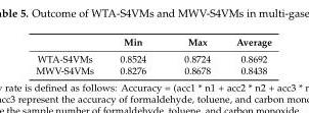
<table><thead><tr><td></td><td>Min</td><td>Max</td><td>Average</td></tr></thead><tbody><tr><td>WTA-S4VMs</td><td>0.8524</td><td>0.8724</td><td>0.8692</td></tr><tr><td>MWV-S4VMs</td><td>0.8276</td><td>0.8678</td><td>0.8438</td></tr></tbody></table>